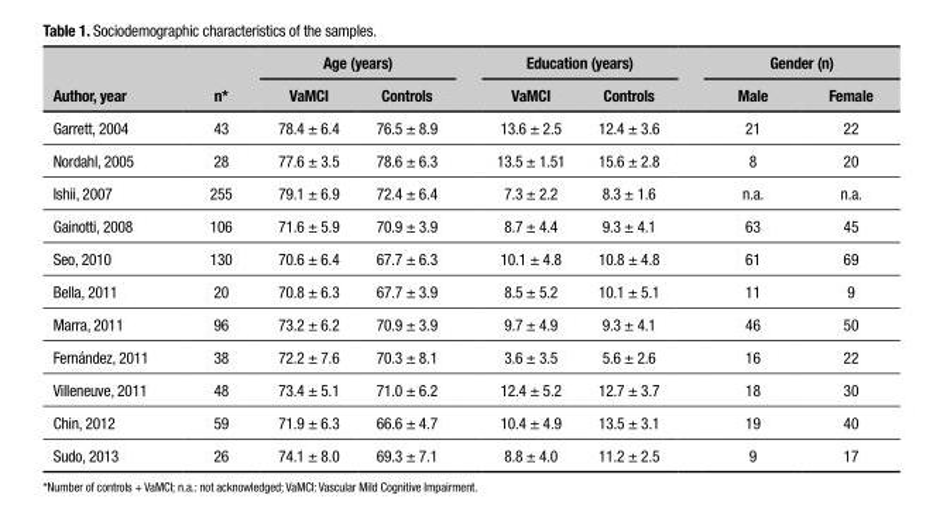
<table><thead><tr><td rowspan="2">Author, year</td><td rowspan="2">n*</td><td colspan="2">Age (years)</td><td colspan="2">Education (years)</td><td colspan="2">Gender (n)</td></tr><tr><td>VaMCI</td><td>Controls</td><td>VaMCI</td><td>Controls</td><td>Male</td><td>Female</td></tr></thead><tbody><tr><td>Garrett, 2004</td><td>43</td><td>78.4 ± 6.4</td><td>76.5 ± 8.9</td><td>13.6 ± 2.5</td><td>12.4 ± 3.6</td><td>21</td><td>22</td></tr><tr><td>Nordahl, 2005</td><td>28</td><td>77.6 ± 3.5</td><td>78.6 ± 6.3</td><td>13.5 ± 1.51</td><td>15.6 ± 2.8</td><td>8</td><td>20</td></tr><tr><td>Ishii, 2007</td><td>255</td><td>79.1 ± 6.9</td><td>72.4 ± 6.4</td><td>7.3 ± 2.2</td><td>8.3 ± 1.6</td><td>n.a.</td><td>n.a.</td></tr><tr><td>Gainotti, 2008</td><td>106</td><td>71.6 ± 5.9</td><td>70.9 ± 3.9</td><td>8.7 ± 4.4</td><td>9.3 ± 4.1</td><td>63</td><td>45</td></tr><tr><td>Seo, 2010</td><td>130</td><td>70.6 ± 6.4</td><td>67.7 ± 6.3</td><td>10.1 ± 4.8</td><td>10.8 ± 4.8</td><td>61</td><td>69</td></tr><tr><td>Bella, 2011</td><td>20</td><td>70.8 ± 6.3</td><td>67.7 ± 3.9</td><td>8.5 ± 5.2</td><td>10.1 ± 5.1</td><td>11</td><td>9</td></tr><tr><td>Marra, 2011</td><td>96</td><td>73.2 ± 6.2</td><td>70.9 ± 3.9</td><td>9.7 ± 4.9</td><td>9.3 ± 4.1</td><td>46</td><td>50</td></tr><tr><td>Fernández, 2011</td><td>38</td><td>72.2 ± 7.6</td><td>70.3 ± 8.1</td><td>3.6 ± 3.5</td><td>5.6 ± 2.6</td><td>16</td><td>22</td></tr><tr><td>Villeneuve, 2011</td><td>48</td><td>73.4 ± 5.1</td><td>71.0 ± 6.2</td><td>12.4 ± 5.2</td><td>12.7 ± 3.7</td><td>18</td><td>30</td></tr><tr><td>Chin, 2012</td><td>59</td><td>71.9 ± 6.3</td><td>66.6 ± 4.7</td><td>10.4 ± 4.9</td><td>13.5 ± 3.1</td><td>19</td><td>40</td></tr><tr><td>Sudo, 2013</td><td>26</td><td>74.1 ± 8.0</td><td>69.3 ± 7.1</td><td>8.8 ± 4.0</td><td>11.2 ± 2.5</td><td>9</td><td>17</td></tr></tbody></table>